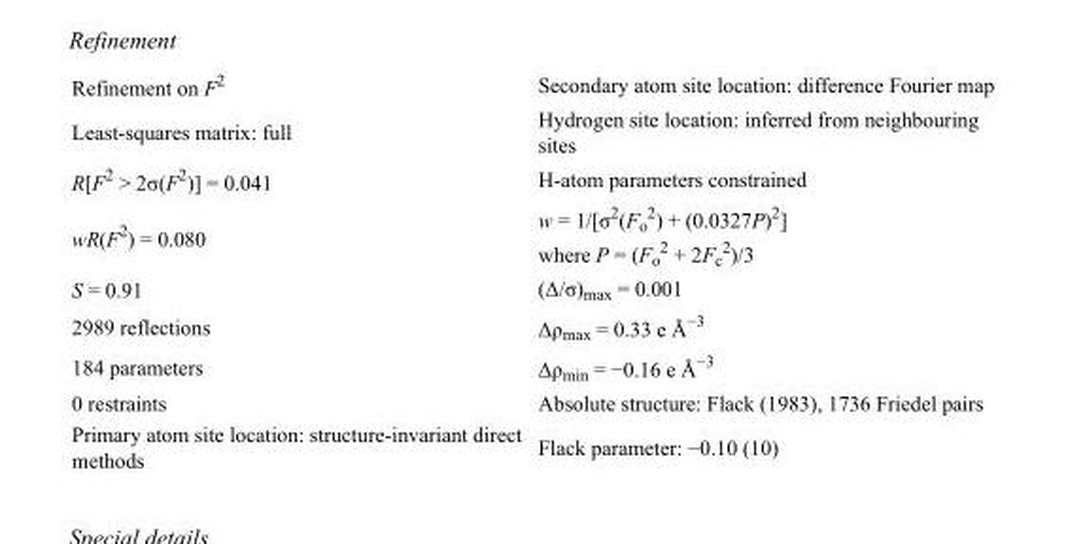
<table><tbody><tr><td>Refinement on F<sup>2</sup></td><td>Secondary atom site location: difference Fourier map</td></tr><tr><td>Least-squares matrix: full</td><td>Hydrogen site location: inferred from neighbouring sites</td></tr><tr><td>R[F<sup>2</sup> &gt; 2σ(F<sup>2</sup>)] = 0.041</td><td>H-atom parameters constrained</td></tr><tr><td>wR(F<sup>2</sup>) = 0.080</td><td>w = 1/[σ<sup>2</sup>(F<sub>o</sub> <sup>2</sup>) + (0.0327P)<sup>2</sup>] where P = (F<sub>o</sub> <sup>2</sup> + 2F<sub>c</sub> <sup>2</sup>)/3</td></tr><tr><td>S = 0.91</td><td>(Δ/σ)<sub>max</sub> = 0.001</td></tr><tr><td>2989 reflections</td><td>Δρ<sub>max</sub> = 0.33 e Å<sup>−3</sup></td></tr><tr><td>184 parameters</td><td>Δρ<sub>min</sub> = −0.16 e Å<sup>−3</sup></td></tr><tr><td>0 restraints</td><td>Absolute structure: Flack (1983), 1736 Friedel pairs</td></tr><tr><td>Primary atom site location: structure-invariant direct methods</td><td>Flack parameter: −0.10 (10)</td></tr></tbody></table>